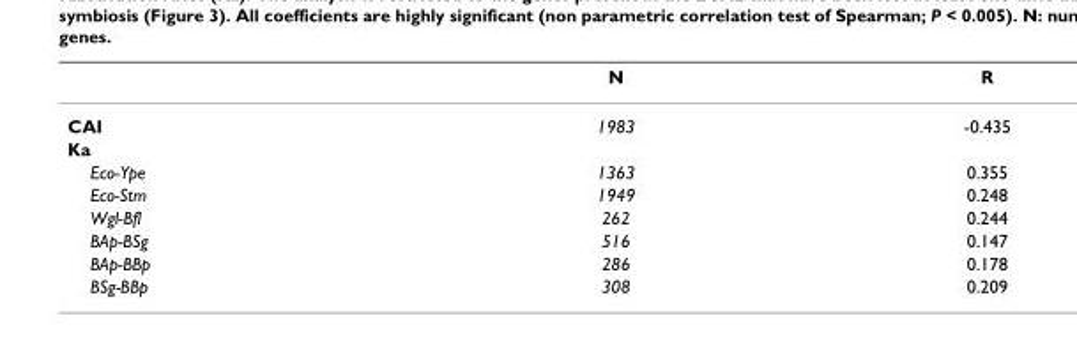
<table><thead><tr><td></td><td>N</td><td>R</td></tr></thead><tbody><tr><td>CAI</td><td>1983</td><td>-0.435</td></tr><tr><td colspan="3">Ka</td></tr><tr><td>Eco-Ype</td><td>1363</td><td>0.355</td></tr><tr><td>Eco-Stm</td><td>1949</td><td>0.248</td></tr><tr><td>Wgl-Bfl</td><td>262</td><td>0.244</td></tr><tr><td>BAp-BSg</td><td>516</td><td>0.147</td></tr><tr><td>BAp-BBp</td><td>286</td><td>0.178</td></tr><tr><td>BSg-BBp</td><td>308</td><td>0.209</td></tr></tbody></table>